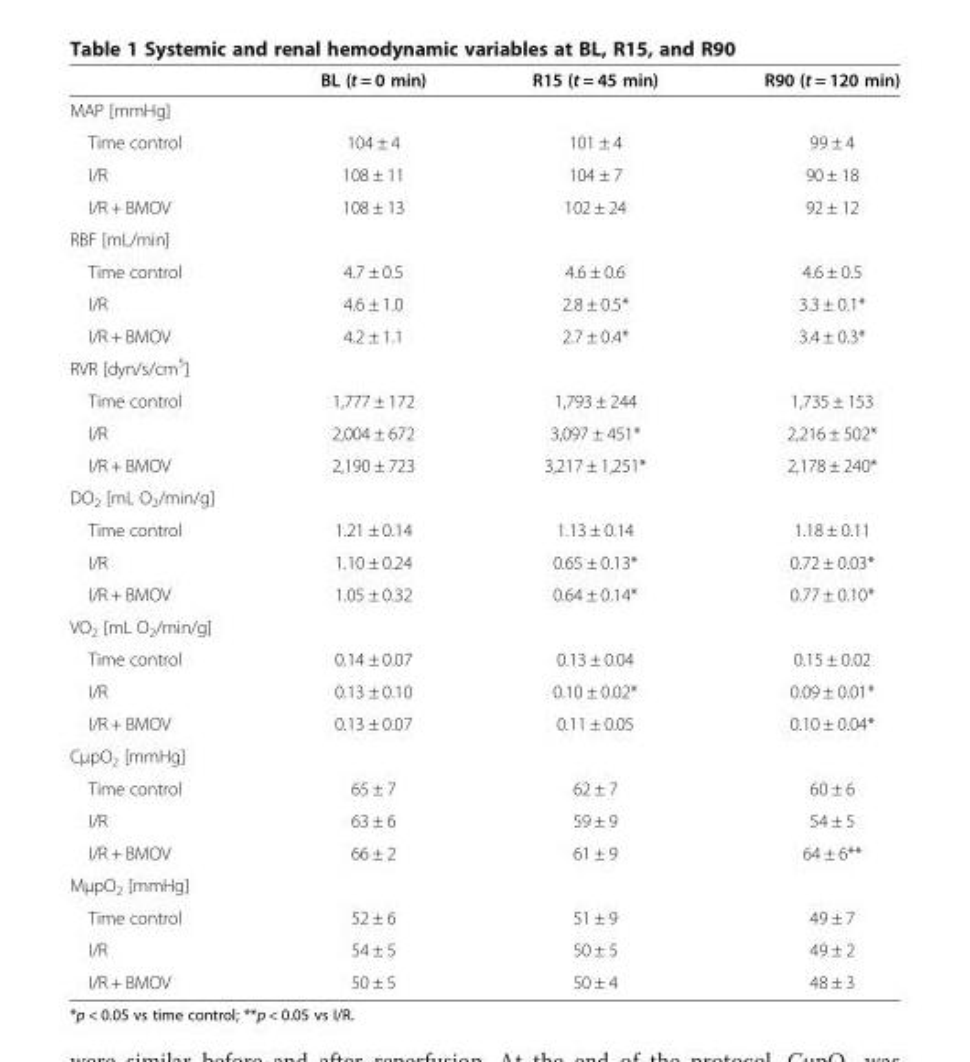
<table><thead><tr><td></td><td>BL (t = 0 min)</td><td>R15 (t = 45 min)</td><td>R90 (t = 120 min)</td></tr></thead><tbody><tr><td colspan="4">MAP [mmHg]</td></tr><tr><td>Time control</td><td>104 ± 4</td><td>101 ± 4</td><td>99 ± 4</td></tr><tr><td>I/R</td><td>108 ± 11</td><td>104 ± 7</td><td>90 ± 18</td></tr><tr><td>I/R + BMOV</td><td>108 ± 13</td><td>102 ± 24</td><td>92 ± 12</td></tr><tr><td colspan="4">RBF [mL/min]</td></tr><tr><td>Time control</td><td>4.7 ± 0.5</td><td>4.6 ± 0.6</td><td>4.6 ± 0.5</td></tr><tr><td>I/R</td><td>4.6 ± 1.0</td><td>2.8 ± 0.5*</td><td>3.3 ± 0.1*</td></tr><tr><td>I/R + BMOV</td><td>4.2 ± 1.1</td><td>2.7 ± 0.4*</td><td>3.4 ± 0.3*</td></tr><tr><td colspan="4">RVR [dyn/s/cm<sup>5</sup>]</td></tr><tr><td>Time control</td><td>1,777 ± 172</td><td>1,793 ± 244</td><td>1,735 ± 153</td></tr><tr><td>I/R</td><td>2,004 ± 672</td><td>3,097 ± 451*</td><td>2,216 ± 502*</td></tr><tr><td>I/R + BMOV</td><td>2,190 ± 723</td><td>3,217 ± 1,251*</td><td>2,178 ± 240*</td></tr><tr><td colspan="4">DO<sub>2</sub> [mL O<sub>2</sub>/min/g]</td></tr><tr><td>Time control</td><td>1.21 ± 0.14</td><td>1.13 ± 0.14</td><td>1.18 ± 0.11</td></tr><tr><td>I/R</td><td>1.10 ± 0.24</td><td>0.65 ± 0.13*</td><td>0.72 ± 0.03*</td></tr><tr><td>I/R + BMOV</td><td>1.05 ± 0.32</td><td>0.64 ± 0.14*</td><td>0.77 ± 0.10*</td></tr><tr><td colspan="4">VO<sub>2</sub> [mL O<sub>2</sub>/min/g]</td></tr><tr><td>Time control</td><td>0.14 ± 0.07</td><td>0.13 ± 0.04</td><td>0.15 ± 0.02</td></tr><tr><td>I/R</td><td>0.13 ± 0.10</td><td>0.10 ± 0.02*</td><td>0.09 ± 0.01*</td></tr><tr><td>I/R + BMOV</td><td>0.13 ± 0.07</td><td>0.11 ± 0.05</td><td>0.10 ± 0.04*</td></tr><tr><td colspan="4">CμpO<sub>2</sub> [mmHg]</td></tr><tr><td>Time control</td><td>65 ± 7</td><td>62 ± 7</td><td>60 ± 6</td></tr><tr><td>I/R</td><td>63 ± 6</td><td>59 ± 9</td><td>54 ± 5</td></tr><tr><td>I/R + BMOV</td><td>66 ± 2</td><td>61 ± 9</td><td>64 ± 6**</td></tr><tr><td colspan="4">MμpO<sub>2</sub> [mmHg]</td></tr><tr><td>Time control</td><td>52 ± 6</td><td>51 ± 9</td><td>49 ± 7</td></tr><tr><td>I/R</td><td>54 ± 5</td><td>50 ± 5</td><td>49 ± 2</td></tr><tr><td>I/R + BMOV</td><td>50 ± 5</td><td>50 ± 4</td><td>48 ± 3</td></tr></tbody></table>